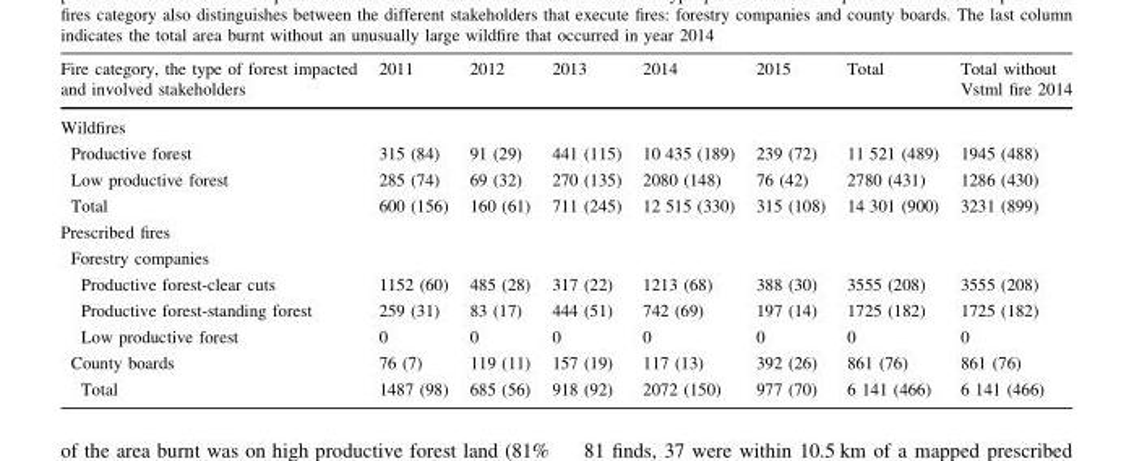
<table><thead><tr><td>Fire category, the type of forest impacted and involved stakeholders</td><td>2011</td><td>2012</td><td>2013</td><td>2014</td><td>2015</td><td>Total</td><td>Total without Vstml fire 2014</td></tr></thead><tbody><tr><td colspan="8">Wildfires</td></tr><tr><td>Productive forest</td><td>315 (84)</td><td>91 (29)</td><td>441 (115)</td><td>10 435 (189)</td><td>239 (72)</td><td>11 521 (489)</td><td>1945 (488)</td></tr><tr><td>Low productive forest</td><td>285 (74)</td><td>69 (32)</td><td>270 (135)</td><td>2080 (148)</td><td>76 (42)</td><td>2780 (431)</td><td>1286 (430)</td></tr><tr><td>Total</td><td>600 (156)</td><td>160 (61)</td><td>711 (245)</td><td>12 515 (330)</td><td>315 (108)</td><td>14 301 (900)</td><td>3231 (899)</td></tr><tr><td colspan="8">Prescribed fires</td></tr><tr><td colspan="8">Forestry companies</td></tr><tr><td>Productive forest-clear cuts</td><td>1152 (60)</td><td>485 (28)</td><td>317 (22)</td><td>1213 (68)</td><td>388 (30)</td><td>3555 (208)</td><td>3555 (208)</td></tr><tr><td>Productive forest-standing forest</td><td>259 (31)</td><td>83 (17)</td><td>444 (51)</td><td>742 (69)</td><td>197 (14)</td><td>1725 (182)</td><td>1725 (182)</td></tr><tr><td>Low productive forest</td><td>0</td><td>0</td><td>0</td><td>0</td><td>0</td><td>0</td><td>0</td></tr><tr><td>County boards</td><td>76 (7)</td><td>119 (11)</td><td>157 (19)</td><td>117 (13)</td><td>392 (26)</td><td>861 (76)</td><td>861 (76)</td></tr><tr><td>Total</td><td>1487 (98)</td><td>685 (56)</td><td>918 (92)</td><td>2072 (150)</td><td>977 (70)</td><td>6 141 (466)</td><td>6 141 (466)</td></tr></tbody></table>